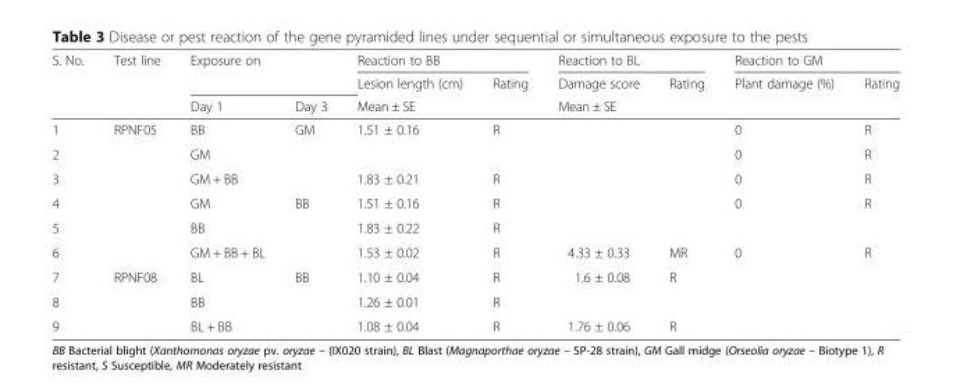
<table><thead><tr><td rowspan="3">S. No.</td><td rowspan="3">Test line</td><td rowspan="2" colspan="2">Exposure on</td><td colspan="2">Reaction to BB</td><td colspan="2">Reaction to BL</td><td colspan="2">Reaction to GM</td></tr><tr><td rowspan="2">Lesion length (cm) Mean ± SE</td><td rowspan="2">Rating</td><td rowspan="2">Damage score Mean ± SE</td><td rowspan="2">Rating</td><td rowspan="2">Plant damage (%)</td><td rowspan="2">Rating</td></tr><tr><td>Day 1</td><td>Day 3</td></tr></thead><tbody><tr><td>1</td><td rowspan="6">RPNF05</td><td>BB</td><td>GM</td><td>1.51 ± 0.16</td><td>R</td><td></td><td></td><td>0</td><td>R</td></tr><tr><td>2</td><td>GM</td><td></td><td></td><td></td><td></td><td></td><td>0</td><td>R</td></tr><tr><td>3</td><td>GM + BB</td><td></td><td>1.83 ± 0.21</td><td>R</td><td></td><td></td><td>0</td><td>R</td></tr><tr><td>4</td><td>GM</td><td>BB</td><td>1.51 ± 0.16</td><td>R</td><td></td><td></td><td>0</td><td>R</td></tr><tr><td>5</td><td>BB</td><td></td><td>1.83 ± 0.22</td><td>R</td><td></td><td></td><td></td><td></td></tr><tr><td>6</td><td>GM + BB + BL</td><td></td><td>1.53 ± 0.02</td><td>R</td><td>4.33 ± 0.33</td><td>MR</td><td>0</td><td>R</td></tr><tr><td>7</td><td rowspan="3">RPNF08</td><td>BL</td><td>BB</td><td>1.10 ± 0.04</td><td>R</td><td>1.6 ± 0.08</td><td>R</td><td></td><td></td></tr><tr><td>8</td><td>BB</td><td></td><td>1.26 ± 0.01</td><td>R</td><td></td><td></td><td></td><td></td></tr><tr><td>9</td><td>BL + BB</td><td></td><td>1.08 ± 0.04</td><td>R</td><td>1.76 ± 0.06</td><td>R</td><td></td><td></td></tr></tbody></table>